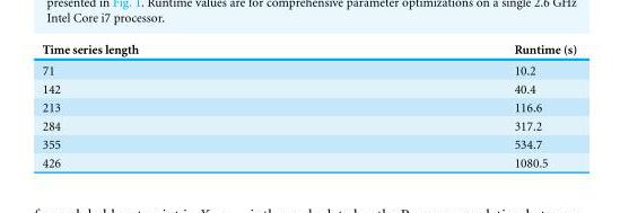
<table><thead><tr><td>Time series length</td><td>Runtime (s)</td></tr></thead><tbody><tr><td>71</td><td>10.2</td></tr><tr><td>142</td><td>40.4</td></tr><tr><td>213</td><td>116.6</td></tr><tr><td>284</td><td>317.2</td></tr><tr><td>355</td><td>534.7</td></tr><tr><td>426</td><td>1080.5</td></tr></tbody></table>